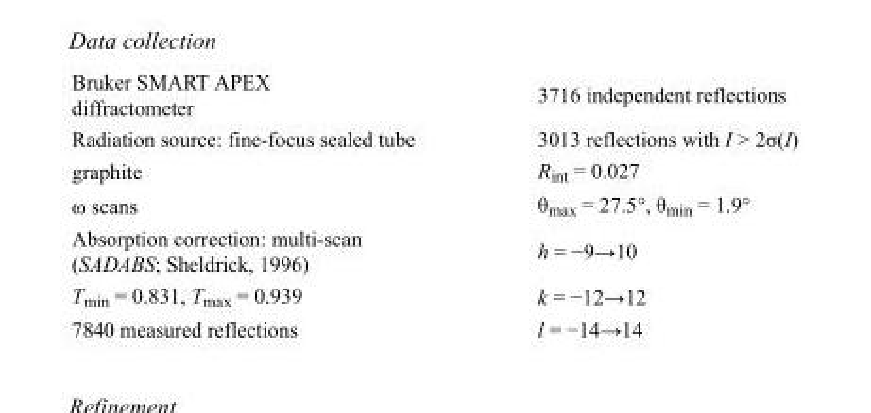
<table><tbody><tr><td>Bruker SMART APEX diffractometer</td><td>3716 independent reflections</td></tr><tr><td>Radiation source: fine-focus sealed tube</td><td>3013 reflections with I &gt; 2σ(I)</td></tr><tr><td>graphite</td><td>R<sub>int</sub> = 0.027</td></tr><tr><td>ω scans</td><td>θ<sub>max</sub> = 27.5°, θ<sub>min</sub> = 1.9°</td></tr><tr><td>Absorption correction: multi-scan (SADABS; Sheldrick, 1996)</td><td>h = −9→10</td></tr><tr><td>T<sub>min</sub> = 0.831, T<sub>max</sub> = 0.939</td><td>k = −12→12</td></tr><tr><td>7840 measured reflections</td><td>l = −14→14</td></tr></tbody></table>